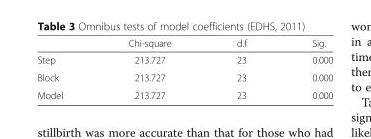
<table><thead><tr><td></td><td>Chi-square</td><td>d.f</td><td>Sig.</td></tr></thead><tbody><tr><td>Step</td><td>213.727</td><td>23</td><td>0.000</td></tr><tr><td>Block</td><td>213.727</td><td>23</td><td>0.000</td></tr><tr><td>Model</td><td>213.727</td><td>23</td><td>0.000</td></tr></tbody></table>